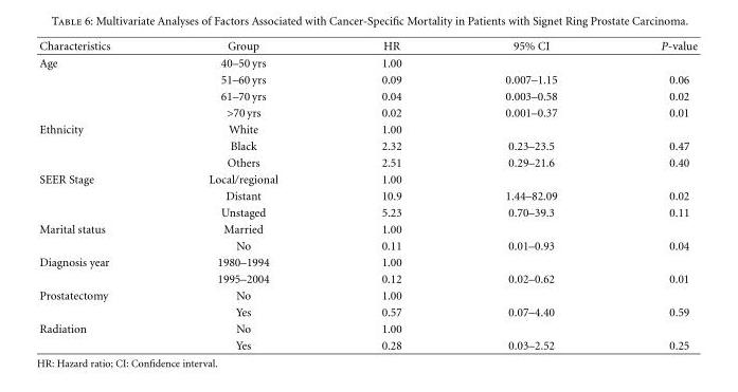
<table><thead><tr><td>Characteristics</td><td>Group</td><td>HR</td><td>95% CI</td><td>P-value</td></tr></thead><tbody><tr><td rowspan="4">Age</td><td>40–50 yrs</td><td>1.00</td><td></td><td></td></tr><tr><td>51–60 yrs</td><td>0.09</td><td>0.007–1.15</td><td>0.06</td></tr><tr><td>61–70 yrs</td><td>0.04</td><td>0.003–0.58</td><td>0.02</td></tr><tr><td>&gt;70 yrs</td><td>0.02</td><td>0.001–0.37</td><td>0.01</td></tr><tr><td rowspan="3">Ethnicity</td><td>White</td><td>1.00</td><td></td><td></td></tr><tr><td>Black</td><td>2.32</td><td>0.23–23.5</td><td>0.47</td></tr><tr><td>Others</td><td>2.51</td><td>0.29–21.6</td><td>0.40</td></tr><tr><td rowspan="3">SEER Stage</td><td>Local/regional</td><td>1.00</td><td></td><td></td></tr><tr><td>Distant</td><td>10.9</td><td>1.44–82.09</td><td>0.02</td></tr><tr><td>Unstaged</td><td>5.23</td><td>0.70–39.3</td><td>0.11</td></tr><tr><td rowspan="2">Marital status</td><td>Married</td><td>1.00</td><td></td><td></td></tr><tr><td>No</td><td>0.11</td><td>0.01–0.93</td><td>0.04</td></tr><tr><td rowspan="2">Diagnosis year</td><td>1980–1994</td><td>1.00</td><td></td><td></td></tr><tr><td>1995–2004</td><td>0.12</td><td>0.02–0.62</td><td>0.01</td></tr><tr><td rowspan="2">Prostatectomy</td><td>No</td><td>1.00</td><td></td><td></td></tr><tr><td>Yes</td><td>0.57</td><td>0.07–4.40</td><td>0.59</td></tr><tr><td rowspan="2">Radiation</td><td>No</td><td>1.00</td><td></td><td></td></tr><tr><td>Yes</td><td>0.28</td><td>0.03–2.52</td><td>0.25</td></tr></tbody></table>